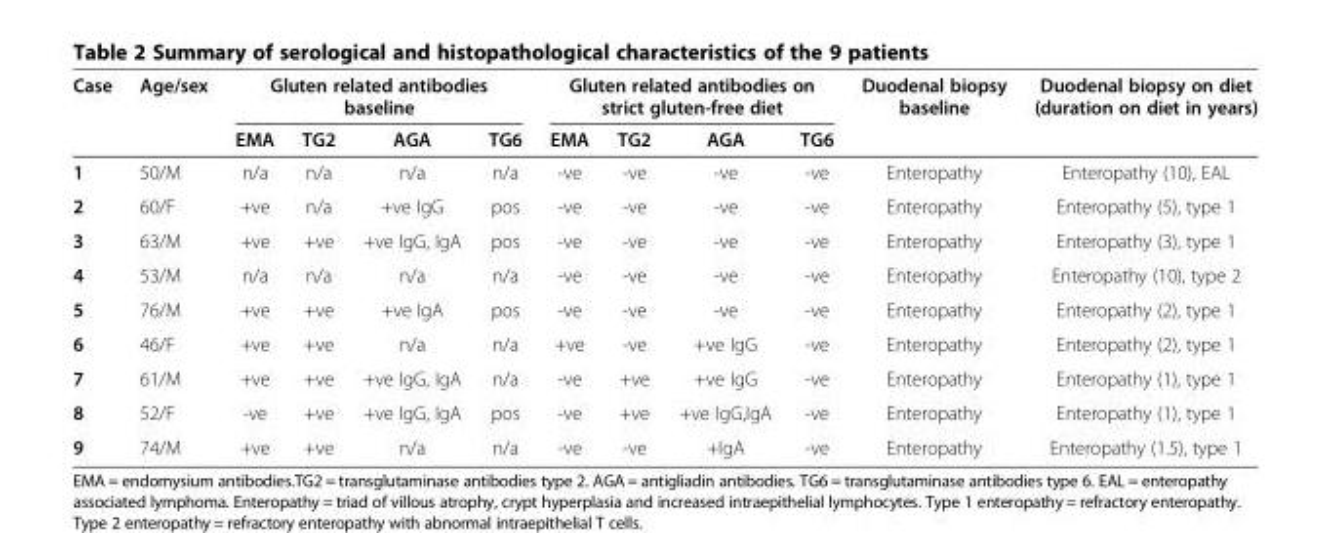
<table><thead><tr><td rowspan="2">Case</td><td rowspan="2">Age/sex</td><td colspan="4">Gluten related antibodies baseline</td><td colspan="4">Gluten related antibodies on strict gluten-free diet</td><td rowspan="2">Duodenal biopsy baseline</td><td rowspan="2">Duodenal biopsy on diet (duration on diet in years)</td></tr><tr><td>EMA</td><td>TG2</td><td>AGA</td><td>TG6</td><td>EMA</td><td>TG2</td><td>AGA</td><td>TG6</td></tr></thead><tbody><tr><td>1</td><td>50/M</td><td>n/a</td><td>n/a</td><td>n/a</td><td>n/a</td><td>-ve</td><td>-ve</td><td>-ve</td><td>-ve</td><td>Enteropathy</td><td>Enteropathy (10), EAL</td></tr><tr><td>2</td><td>60/F</td><td>+ve</td><td>n/a</td><td>+ve IgG</td><td>pos</td><td>-ve</td><td>-ve</td><td>-ve</td><td>-ve</td><td>Enteropathy</td><td>Enteropathy (5), type 1</td></tr><tr><td>3</td><td>63/M</td><td>+ve</td><td>+ve</td><td>+ve IgG, IgA</td><td>pos</td><td>-ve</td><td>-ve</td><td>-ve</td><td>-ve</td><td>Enteropathy</td><td>Enteropathy (3), type 1</td></tr><tr><td>4</td><td>53/M</td><td>n/a</td><td>n/a</td><td>n/a</td><td>n/a</td><td>-ve</td><td>-ve</td><td>-ve</td><td>-ve</td><td>Enteropathy</td><td>Enteropathy (10), type 2</td></tr><tr><td>5</td><td>76/M</td><td>+ve</td><td>+ve</td><td>+ve IgA</td><td>pos</td><td>-ve</td><td>-ve</td><td>-ve</td><td>-ve</td><td>Enteropathy</td><td>Enteropathy (2), type 1</td></tr><tr><td>6</td><td>46/F</td><td>+ve</td><td>+ve</td><td>n/a</td><td>n/a</td><td>+ve</td><td>-ve</td><td>+ve IgG</td><td>-ve</td><td>Enteropathy</td><td>Enteropathy (2), type 1</td></tr><tr><td>7</td><td>61/M</td><td>+ve</td><td>+ve</td><td>+ve IgG, IgA</td><td>n/a</td><td>-ve</td><td>+ve</td><td>+ve IgG</td><td>-ve</td><td>Enteropathy</td><td>Enteropathy (1), type 1</td></tr><tr><td>8</td><td>52/F</td><td>-ve</td><td>+ve</td><td>+ve IgG, IgA</td><td>pos</td><td>-ve</td><td>+ve</td><td>+ve IgG,IgA</td><td>-ve</td><td>Enteropathy</td><td>Enteropathy (1), type 1</td></tr><tr><td>9</td><td>74/M</td><td>+ve</td><td>+ve</td><td>n/a</td><td>n/a</td><td>-ve</td><td>-ve</td><td>+IgA</td><td>-ve</td><td>Enteropathy</td><td>Enteropathy (1.5), type 1</td></tr></tbody></table>